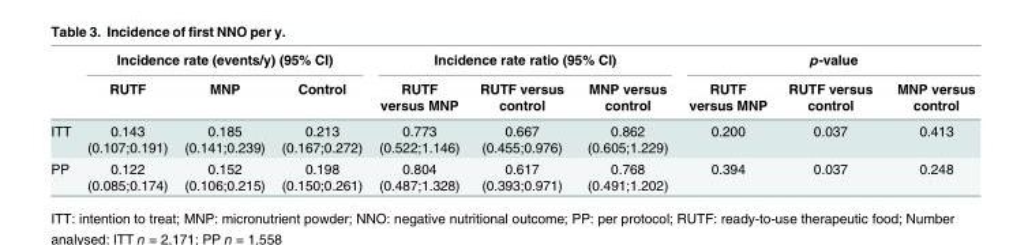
<table><thead><tr><td rowspan="2"></td><td colspan="3">Incidence rate (events/y) (95% CI)</td><td colspan="3">Incidence rate ratio (95% CI)</td><td colspan="3">p-value</td></tr><tr><td>RUTF</td><td>MNP</td><td>Control</td><td>RUTF versus MNP</td><td>RUTF versus control</td><td>MNP versus control</td><td>RUTF versus MNP</td><td>RUTF versus control</td><td>MNP versus control</td></tr></thead><tbody><tr><td>ITT</td><td>0.143 (0.107;0.191)</td><td>0.185 (0.141;0.239)</td><td>0.213 (0.167;0.272)</td><td>0.773 (0.522;1.146)</td><td>0.667 (0.455;0.976)</td><td>0.862 (0.605;1.229)</td><td>0.200</td><td>0.037</td><td>0.413</td></tr><tr><td>PP</td><td>0.122 (0.085;0.174)</td><td>0.152 (0.106;0.215)</td><td>0.198 (0.150;0.261)</td><td>0.804 (0.487;1.328)</td><td>0.617 (0.393;0.971)</td><td>0.768 (0.491;1.202)</td><td>0.394</td><td>0.037</td><td>0.248</td></tr></tbody></table>